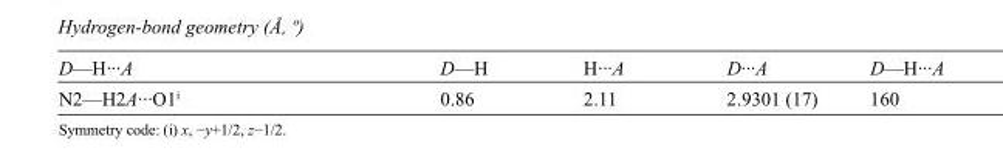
<table><tbody><tr><td>D—H···A</td><td>D—H</td><td>H···A</td><td>D···A</td><td>D—H···A</td></tr><tr><td>N2—H2A···O1<sup>i</sup></td><td>0.86</td><td>2.11</td><td>2.9301 (17)</td><td>160</td></tr></tbody></table>